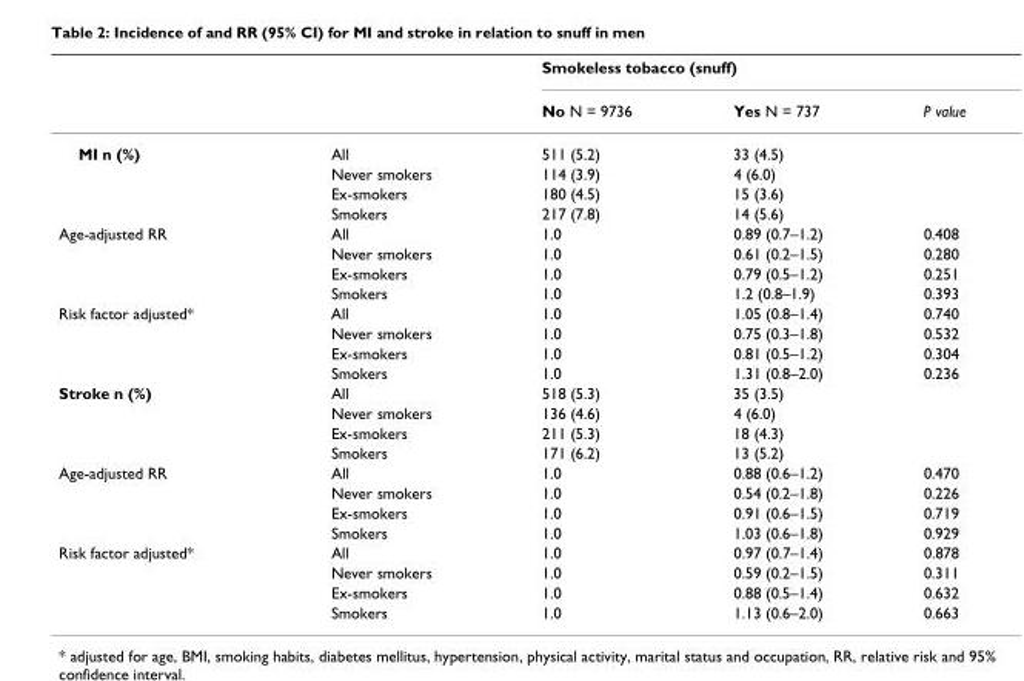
<table><thead><tr><td rowspan="2"></td><td rowspan="2"></td><td colspan="3">Smokeless tobacco (snuff)</td></tr><tr><td>No N = 9736</td><td>Yes N = 737</td><td>P value</td></tr></thead><tbody><tr><td rowspan="4">MI n (%)</td><td>All</td><td>511 (5.2)</td><td>33 (4.5)</td><td></td></tr><tr><td>Never smokers</td><td>114 (3.9)</td><td>4 (6.0)</td><td></td></tr><tr><td>Ex-smokers</td><td>180 (4.5)</td><td>15 (3.6)</td><td></td></tr><tr><td>Smokers</td><td>217 (7.8)</td><td>14 (5.6)</td><td></td></tr><tr><td rowspan="4">Age-adjusted RR</td><td>All</td><td>1.0</td><td>0.89 (0.7–1.2)</td><td>0.408</td></tr><tr><td>Never smokers</td><td>1.0</td><td>0.61 (0.2–1.5)</td><td>0.280</td></tr><tr><td>Ex-smokers</td><td>1.0</td><td>0.79 (0.5–1.2)</td><td>0.251</td></tr><tr><td>Smokers</td><td>1.0</td><td>1.2 (0.8–1.9)</td><td>0.393</td></tr><tr><td rowspan="4">Risk factor adjusted*</td><td>All</td><td>1.0</td><td>1.05 (0.8–1.4)</td><td>0.740</td></tr><tr><td>Never smokers</td><td>1.0</td><td>0.75 (0.3–1.8)</td><td>0.532</td></tr><tr><td>Ex-smokers</td><td>1.0</td><td>0.81 (0.5–1.2)</td><td>0.304</td></tr><tr><td>Smokers</td><td>1.0</td><td>1.31 (0.8–2.0)</td><td>0.236</td></tr><tr><td rowspan="4">Stroke n (%)</td><td>All</td><td>518 (5.3)</td><td>35 (3.5)</td><td></td></tr><tr><td>Never smokers</td><td>136 (4.6)</td><td>4 (6.0)</td><td></td></tr><tr><td>Ex-smokers</td><td>211 (5.3)</td><td>18 (4.3)</td><td></td></tr><tr><td>Smokers</td><td>171 (6.2)</td><td>13 (5.2)</td><td></td></tr><tr><td rowspan="4">Age-adjusted RR</td><td>All</td><td>1.0</td><td>0.88 (0.6–1.2)</td><td>0.470</td></tr><tr><td>Never smokers</td><td>1.0</td><td>0.54 (0.2–1.8)</td><td>0.226</td></tr><tr><td>Ex-smokers</td><td>1.0</td><td>0.91 (0.6–1.5)</td><td>0.719</td></tr><tr><td>Smokers</td><td>1.0</td><td>1.03 (0.6–1.8)</td><td>0.929</td></tr><tr><td rowspan="4">Risk factor adjusted*</td><td>All</td><td>1.0</td><td>0.97 (0.7–1.4)</td><td>0.878</td></tr><tr><td>Never smokers</td><td>1.0</td><td>0.59 (0.2–1.5)</td><td>0.311</td></tr><tr><td>Ex-smokers</td><td>1.0</td><td>0.88 (0.5–1.4)</td><td>0.632</td></tr><tr><td>Smokers</td><td>1.0</td><td>1.13 (0.6–2.0)</td><td>0.663</td></tr></tbody></table>